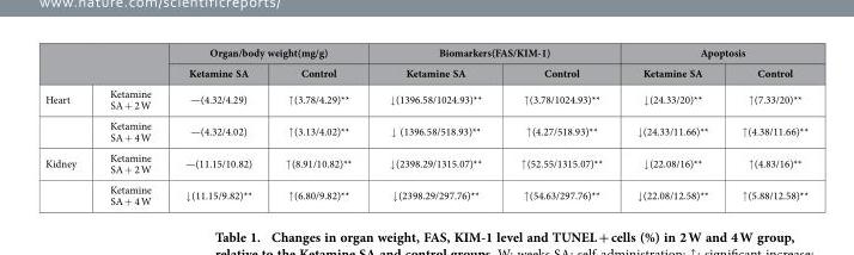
<table><thead><tr><td rowspan="2"></td><td rowspan="2"></td><td colspan="2">Organ/body weight(mg/g)</td><td colspan="2">Biomarkers(FAS/KIM-1)</td><td colspan="2">Apoptosis</td></tr><tr><td>Ketamine SA</td><td>Control</td><td>Ketamine SA</td><td>Control</td><td>Ketamine SA</td><td>Control</td></tr></thead><tbody><tr><td rowspan="2">Heart</td><td>Ketamine SA + 2 W</td><td>—(4.32/4.29)</td><td>↑ (3.78/4.29)**</td><td>↓ (1396.58/1024.93)**</td><td>↑ (3.78/1024.93)**</td><td>↓ (24.33/20)**</td><td>↑ (7.33/20)**</td></tr><tr><td>Ketamine SA + 4 W</td><td>—(4.32/4.02)</td><td>↑ (3.13/4.02)**</td><td>↓ (1396.58/518.93)**</td><td>↑ (4.27/518.93)**</td><td>↓ (24.33/11.66)**</td><td>↑ (4.38/11.66)**</td></tr><tr><td rowspan="2">Kidney</td><td>Ketamine SA + 2 W</td><td>—(11.15/10.82)</td><td>↑ (8.91/10.82)**</td><td>↓ (2398.29/1315.07)**</td><td>↑ (52.55/1315.07)**</td><td>↓ (22.08/16)**</td><td>↑ (4.83/16)**</td></tr><tr><td>Ketamine SA + 4 W</td><td>↓ (11.15/9.82)**</td><td>↑ (6.80/9.82)**</td><td>↓ (2398.29/297.76)**</td><td>↑ (54.63/297.76)**</td><td>↓ (22.08/12.58)**</td><td>↑ (5.88/12.58)**</td></tr></tbody></table>